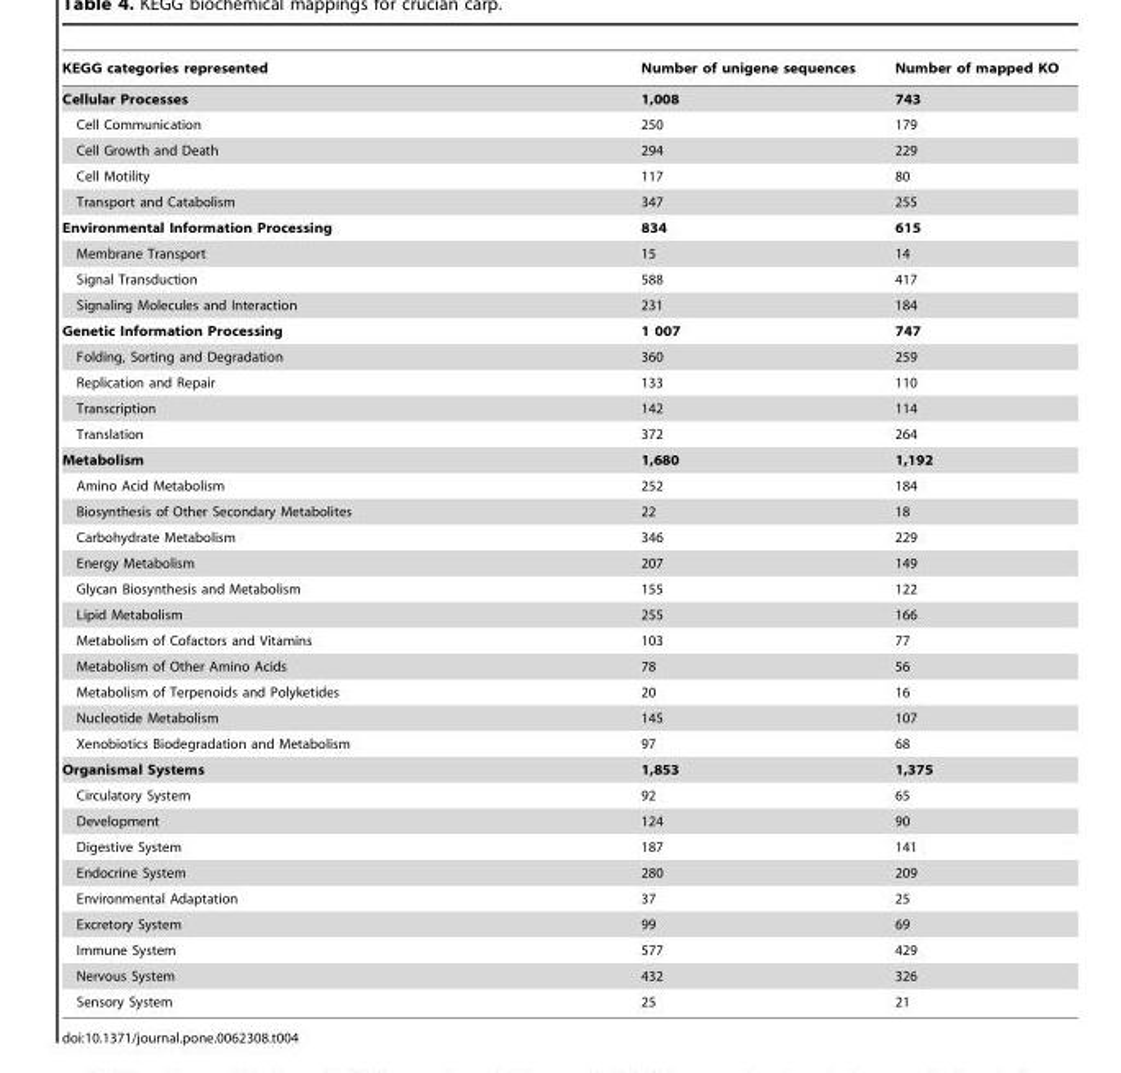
<table><thead><tr><td>KEGG categories represented</td><td>Number of unigene sequences</td><td>Number of mapped KO</td></tr></thead><tbody><tr><td>Cellular Processes</td><td>1,008</td><td>743</td></tr><tr><td>Cell Communication</td><td>250</td><td>179</td></tr><tr><td>Cell Growth and Death</td><td>294</td><td>229</td></tr><tr><td>Cell Motility</td><td>117</td><td>80</td></tr><tr><td>Transport and Catabolism</td><td>347</td><td>255</td></tr><tr><td>Environmental Information Processing</td><td>834</td><td>615</td></tr><tr><td>Membrane Transport</td><td>15</td><td>14</td></tr><tr><td>Signal Transduction</td><td>588</td><td>417</td></tr><tr><td>Signaling Molecules and Interaction</td><td>231</td><td>184</td></tr><tr><td>Genetic Information Processing</td><td>1 007</td><td>747</td></tr><tr><td>Folding, Sorting and Degradation</td><td>360</td><td>259</td></tr><tr><td>Replication and Repair</td><td>133</td><td>110</td></tr><tr><td>Transcription</td><td>142</td><td>114</td></tr><tr><td>Translation</td><td>372</td><td>264</td></tr><tr><td>Metabolism</td><td>1,680</td><td>1,192</td></tr><tr><td>Amino Acid Metabolism</td><td>252</td><td>184</td></tr><tr><td>Biosynthesis of Other Secondary Metabolites</td><td>22</td><td>18</td></tr><tr><td>Carbohydrate Metabolism</td><td>346</td><td>229</td></tr><tr><td>Energy Metabolism</td><td>207</td><td>149</td></tr><tr><td>Glycan Biosynthesis and Metabolism</td><td>155</td><td>122</td></tr><tr><td>Lipid Metabolism</td><td>255</td><td>166</td></tr><tr><td>Metabolism of Cofactors and Vitamins</td><td>103</td><td>77</td></tr><tr><td>Metabolism of Other Amino Acids</td><td>78</td><td>56</td></tr><tr><td>Metabolism of Terpenoids and Polyketides</td><td>20</td><td>16</td></tr><tr><td>Nucleotide Metabolism</td><td>145</td><td>107</td></tr><tr><td>Xenobiotics Biodegradation and Metabolism</td><td>97</td><td>68</td></tr><tr><td>Organismal Systems</td><td>1,853</td><td>1,375</td></tr><tr><td>Circulatory System</td><td>92</td><td>65</td></tr><tr><td>Development</td><td>124</td><td>90</td></tr><tr><td>Digestive System</td><td>187</td><td>141</td></tr><tr><td>Endocrine System</td><td>280</td><td>209</td></tr><tr><td>Environmental Adaptation</td><td>37</td><td>25</td></tr><tr><td>Excretory System</td><td>99</td><td>69</td></tr><tr><td>Immune System</td><td>577</td><td>429</td></tr><tr><td>Nervous System</td><td>432</td><td>326</td></tr><tr><td>Sensory System</td><td>25</td><td>21</td></tr></tbody></table>